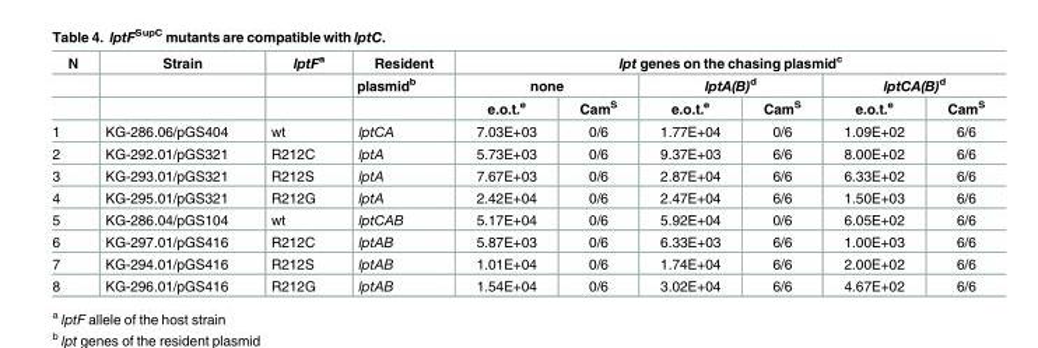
<table><thead><tr><td rowspan="3">N</td><td rowspan="3">Strain</td><td rowspan="3">lptF<sup>a</sup></td><td rowspan="3">Resident plasmid<sup>b</sup></td><td colspan="6">lpt genes on the chasing plasmid<sup>c</sup></td></tr><tr><td colspan="2">none</td><td colspan="2">lptA(B)<sup>d</sup></td><td colspan="2">lptCA(B)<sup>d</sup></td></tr><tr><td>e.o.t.<sup>e</sup></td><td>Cam<sup>S</sup></td><td>e.o.t.<sup>e</sup></td><td>Cam<sup>S</sup></td><td>e.o.t.<sup>e</sup></td><td>Cam<sup>S</sup></td></tr></thead><tbody><tr><td>1</td><td>KG-286.06/pGS404</td><td>wt</td><td>lptCA</td><td>7.03E+03</td><td>0/6</td><td>1.77E+04</td><td>0/6</td><td>1.09E+02</td><td>6/6</td></tr><tr><td>2</td><td>KG-292.01/pGS321</td><td>R212C</td><td>lptA</td><td>5.73E+03</td><td>0/6</td><td>9.37E+03</td><td>6/6</td><td>8.00E+02</td><td>6/6</td></tr><tr><td>3</td><td>KG-293.01/pGS321</td><td>R212S</td><td>lptA</td><td>7.67E+03</td><td>0/6</td><td>2.87E+04</td><td>6/6</td><td>6.33E+02</td><td>6/6</td></tr><tr><td>4</td><td>KG-295.01/pGS321</td><td>R212G</td><td>lptA</td><td>2.42E+04</td><td>0/6</td><td>2.47E+04</td><td>6/6</td><td>1.50E+03</td><td>6/6</td></tr><tr><td>5</td><td>KG-286.04/pGS104</td><td>wt</td><td>lptCAB</td><td>5.17E+04</td><td>0/6</td><td>5.92E+04</td><td>0/6</td><td>6.05E+02</td><td>6/6</td></tr><tr><td>6</td><td>KG-297.01/pGS416</td><td>R212C</td><td>lptAB</td><td>5.87E+03</td><td>0/6</td><td>6.33E+03</td><td>6/6</td><td>1.00E+03</td><td>6/6</td></tr><tr><td>7</td><td>KG-294.01/pGS416</td><td>R212S</td><td>lptAB</td><td>1.01E+04</td><td>0/6</td><td>1.74E+04</td><td>6/6</td><td>2.00E+02</td><td>6/6</td></tr><tr><td>8</td><td>KG-296.01/pGS416</td><td>R212G</td><td>lptAB</td><td>1.54E+04</td><td>0/6</td><td>3.02E+04</td><td>6/6</td><td>4.67E+02</td><td>6/6</td></tr></tbody></table>